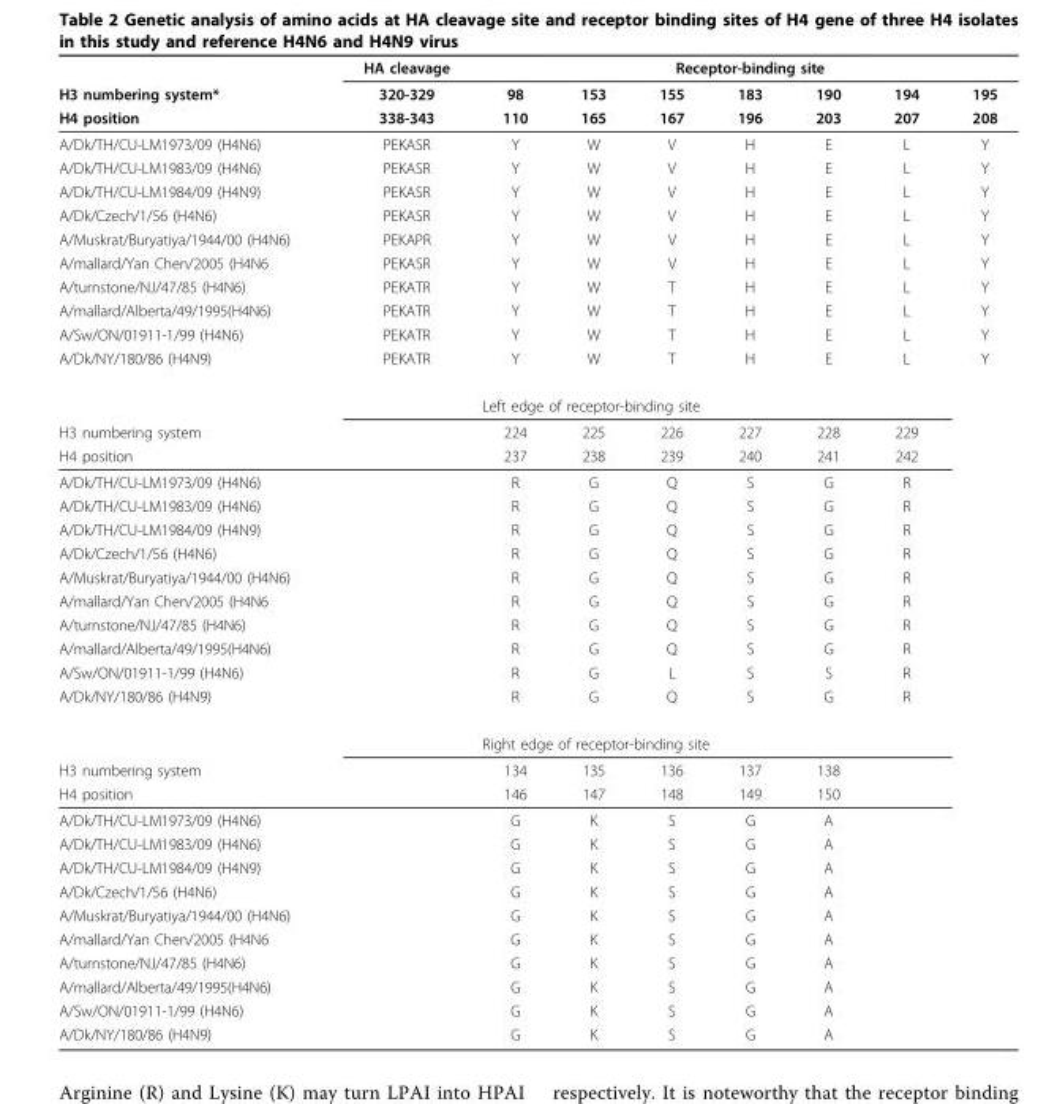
<table><thead><tr><td rowspan="3">H3 numbering system* H4 position</td><td rowspan="3">HA cleavage 320-329 338-343</td><td colspan="7">Receptor-binding site</td></tr><tr><td rowspan="2">98 110</td><td rowspan="2">153 165</td><td rowspan="2">155 167</td><td rowspan="2">183 196</td><td rowspan="2">190 203</td><td rowspan="2">194 207</td><td rowspan="2">195 208</td></tr><tr></tr></thead><tbody><tr><td>A/Dk/TH/CU-LM1973/09 (H4N6)</td><td>PEKASR</td><td>Y</td><td>W</td><td>V</td><td>H</td><td>E</td><td>L</td><td>Y</td></tr><tr><td>A/Dk/TH/CU-LM1983/09 (H4N6)</td><td>PEKASR</td><td>Y</td><td>W</td><td>V</td><td>H</td><td>E</td><td>L</td><td>Y</td></tr><tr><td>A/Dk/TH/CU-LM1984/09 (H4N9)</td><td>PEKASR</td><td>Y</td><td>W</td><td>V</td><td>H</td><td>E</td><td>L</td><td>Y</td></tr><tr><td>A/Dk/Czech/1/56 (H4N6)</td><td>PEKASR</td><td>Y</td><td>W</td><td>V</td><td>H</td><td>E</td><td>L</td><td>Y</td></tr><tr><td>A/Muskrat/Buryatiya/1944/00 (H4N6)</td><td>PEKAPR</td><td>Y</td><td>W</td><td>V</td><td>H</td><td>E</td><td>L</td><td>Y</td></tr><tr><td>A/mallard/Yan Chen/2005 (H4N6</td><td>PEKASR</td><td>Y</td><td>W</td><td>V</td><td>H</td><td>E</td><td>L</td><td>Y</td></tr><tr><td>A/turnstone/NJ/47/85 (H4N6)</td><td>PEKATR</td><td>Y</td><td>W</td><td>T</td><td>H</td><td>E</td><td>L</td><td>Y</td></tr><tr><td>A/mallard/Alberta/49/1995(H4N6)</td><td>PEKATR</td><td>Y</td><td>W</td><td>T</td><td>H</td><td>E</td><td>L</td><td>Y</td></tr><tr><td>A/Sw/ON/01911-1/99 (H4N6)</td><td>PEKATR</td><td>Y</td><td>W</td><td>T</td><td>H</td><td>E</td><td>L</td><td>Y</td></tr><tr><td rowspan="2">A/Dk/NY/180/86 (H4N9)</td><td>PEKATR</td><td>Y</td><td>W</td><td>T</td><td>H</td><td>E</td><td>L</td><td>Y</td></tr><tr><td></td><td colspan="7">Left edge of receptor-binding site</td></tr><tr><td>H3 numbering system</td><td></td><td>224</td><td>225</td><td>226</td><td>227</td><td>228</td><td>229</td><td></td></tr><tr><td>H4 position</td><td></td><td>237</td><td>238</td><td>239</td><td>240</td><td>241</td><td>242</td><td></td></tr><tr><td>A/Dk/TH/CU-LM1973/09 (H4N6)</td><td></td><td>R</td><td>G</td><td>Q</td><td>S</td><td>G</td><td>R</td><td></td></tr><tr><td>A/Dk/TH/CU-LM1983/09 (H4N6)</td><td></td><td>R</td><td>G</td><td>Q</td><td>S</td><td>G</td><td>R</td><td></td></tr><tr><td>A/Dk/TH/CU-LM1984/09 (H4N9)</td><td></td><td>R</td><td>G</td><td>Q</td><td>S</td><td>G</td><td>R</td><td></td></tr><tr><td>A/Dk/Czech/1/56 (H4N6)</td><td></td><td>R</td><td>G</td><td>Q</td><td>S</td><td>G</td><td>R</td><td></td></tr><tr><td>A/Muskrat/Buryatiya/1944/00 (H4N6)</td><td></td><td>R</td><td>G</td><td>Q</td><td>S</td><td>G</td><td>R</td><td></td></tr><tr><td>A/mallard/Yan Chen/2005 (H4N6</td><td></td><td>R</td><td>G</td><td>Q</td><td>S</td><td>G</td><td>R</td><td></td></tr><tr><td>A/turnstone/NJ/47/85 (H4N6)</td><td></td><td>R</td><td>G</td><td>Q</td><td>S</td><td>G</td><td>R</td><td></td></tr><tr><td>A/mallard/Alberta/49/1995(H4N6)</td><td></td><td>R</td><td>G</td><td>Q</td><td>S</td><td>G</td><td>R</td><td></td></tr><tr><td>A/Sw/ON/01911-1/99 (H4N6)</td><td></td><td>R</td><td>G</td><td>L</td><td>S</td><td>S</td><td>R</td><td></td></tr><tr><td rowspan="2">A/Dk/NY/180/86 (H4N9)</td><td></td><td>R</td><td>G</td><td>Q</td><td>S</td><td>G</td><td>R</td><td></td></tr><tr><td></td><td colspan="7">Right edge of receptor-binding site</td></tr><tr><td>H3 numbering system</td><td></td><td>134</td><td>135</td><td>136</td><td>137</td><td>138</td><td></td><td></td></tr><tr><td>H4 position</td><td></td><td>146</td><td>147</td><td>148</td><td>149</td><td>150</td><td></td><td></td></tr><tr><td>A/Dk/TH/CU-LM1973/09 (H4N6)</td><td></td><td>G</td><td>K</td><td>S</td><td>G</td><td>A</td><td></td><td></td></tr><tr><td>A/Dk/TH/CU-LM1983/09 (H4N6)</td><td></td><td>G</td><td>K</td><td>S</td><td>G</td><td>A</td><td></td><td></td></tr><tr><td>A/Dk/TH/CU-LM1984/09 (H4N9)</td><td></td><td>G</td><td>K</td><td>S</td><td>G</td><td>A</td><td></td><td></td></tr><tr><td>A/Dk/Czech/1/56 (H4N6)</td><td></td><td>G</td><td>K</td><td>S</td><td>G</td><td>A</td><td></td><td></td></tr><tr><td>A/Muskrat/Buryatiya/1944/00 (H4N6)</td><td></td><td>G</td><td>K</td><td>S</td><td>G</td><td>A</td><td></td><td></td></tr><tr><td>A/mallard/Yan Chen/2005 (H4N6</td><td></td><td>G</td><td>K</td><td>S</td><td>G</td><td>A</td><td></td><td></td></tr><tr><td>A/turnstone/NJ/47/85 (H4N6)</td><td></td><td>G</td><td>K</td><td>S</td><td>G</td><td>A</td><td></td><td></td></tr><tr><td>A/mallard/Alberta/49/1995(H4N6)</td><td></td><td>G</td><td>K</td><td>S</td><td>G</td><td>A</td><td></td><td></td></tr><tr><td>A/Sw/ON/01911-1/99 (H4N6)</td><td></td><td>G</td><td>K</td><td>S</td><td>G</td><td>A</td><td></td><td></td></tr><tr><td>A/Dk/NY/180/86 (H4N9)</td><td></td><td>G</td><td>K</td><td>S</td><td>G</td><td>A</td><td></td><td></td></tr></tbody></table>